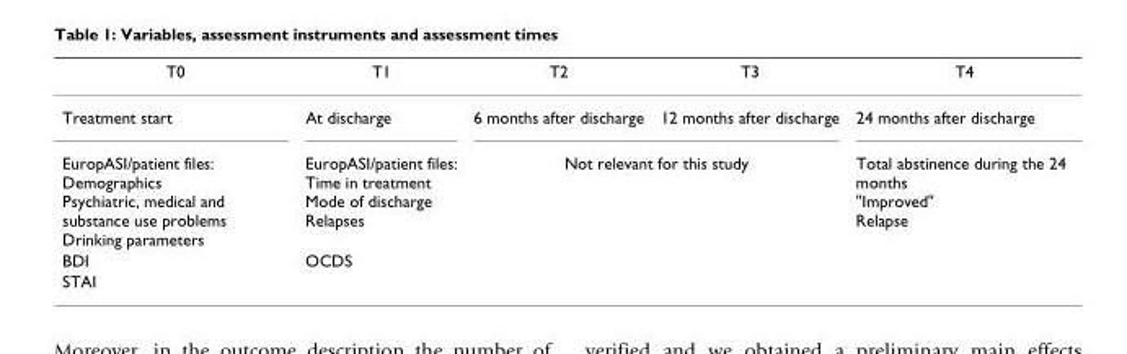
<table><thead><tr><td>T0</td><td>T1</td><td>T2</td><td>T3</td><td>T4</td></tr></thead><tbody><tr><td>Treatment start</td><td>At discharge</td><td>6 months after discharge</td><td>12 months after discharge</td><td>24 months after discharge</td></tr><tr><td>EuropASI/patient files: Demographics Psychiatric, medical and substance use problems Drinking parameters</td><td>EuropASI/patient files: Time in treatment Mode of discharge Relapses</td><td colspan="2">Not relevant for this study</td><td>Total abstinence during the 24 months &quot;Improved&quot; Relapse</td></tr><tr><td>BDI</td><td>OCDS</td><td></td><td></td><td></td></tr><tr><td>STAI</td><td></td><td></td><td></td><td></td></tr></tbody></table>